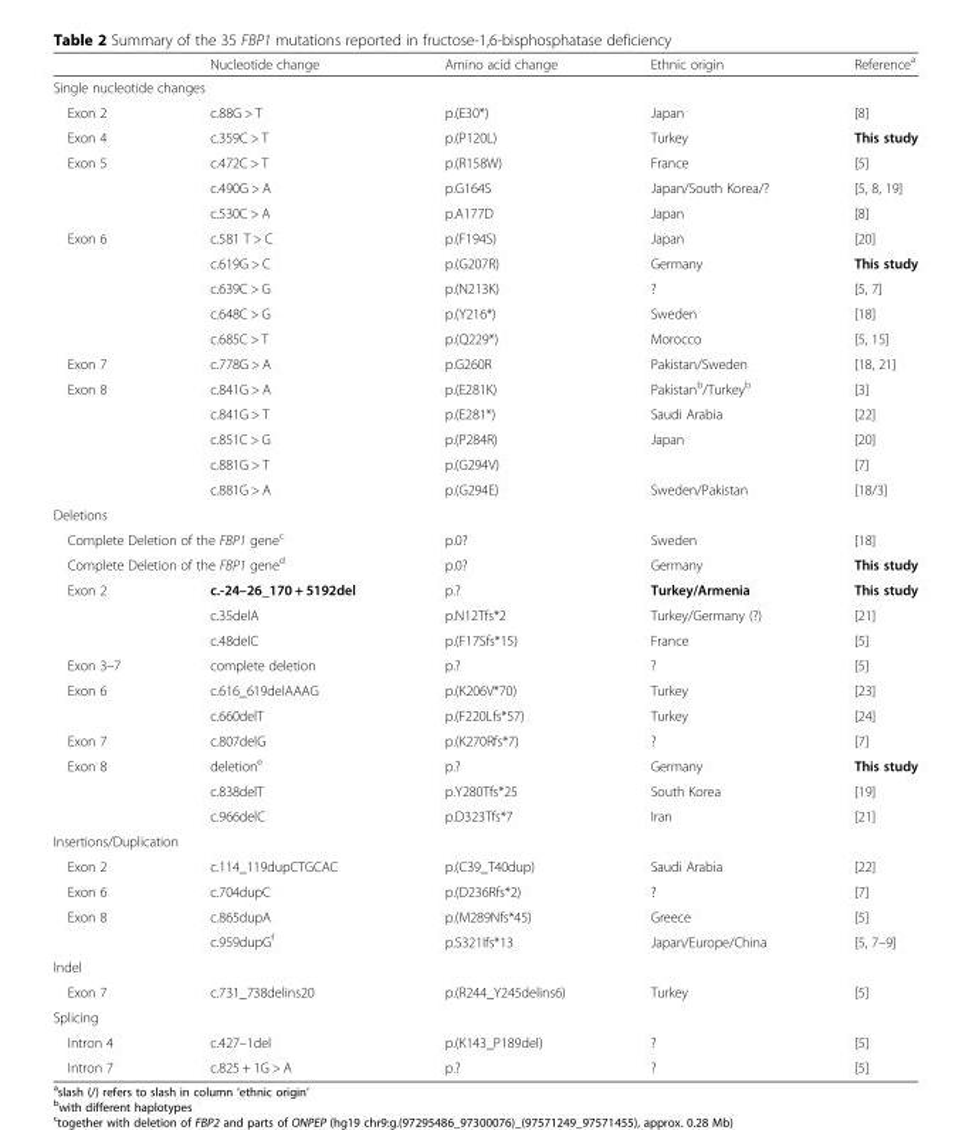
<table><thead><tr><td></td><td>Nucleotide change</td><td>Amino acid change</td><td>Ethnic origin</td><td>Reference<sup>a</sup></td></tr></thead><tbody><tr><td colspan="5">Single nucleotide changes</td></tr><tr><td>Exon 2</td><td>c.88G &gt; T</td><td>p.(E30*)</td><td>Japan</td><td>[8]</td></tr><tr><td>Exon 4</td><td>c.359C &gt; T</td><td>p.(P120L)</td><td>Turkey</td><td>This study</td></tr><tr><td rowspan="3">Exon 5</td><td>c.472C &gt; T</td><td>p.(R158W)</td><td>France</td><td>[5]</td></tr><tr><td>c.490G &gt; A</td><td>p.G164S</td><td>Japan/South Korea/?</td><td>[5, 8, 19]</td></tr><tr><td>c.530C &gt; A</td><td>p.A177D</td><td>Japan</td><td>[8]</td></tr><tr><td rowspan="5">Exon 6</td><td>c.581 T &gt; C</td><td>p.(F194S)</td><td>Japan</td><td>[20]</td></tr><tr><td>c.619G &gt; C</td><td>p.(G207R)</td><td>Germany</td><td>This study</td></tr><tr><td>c.639C &gt; G</td><td>p.(N213K)</td><td>?</td><td>[5, 7]</td></tr><tr><td>c.648C &gt; G</td><td>p.(Y216*)</td><td>Sweden</td><td>[18]</td></tr><tr><td>c.685C &gt; T</td><td>p.(Q229*)</td><td>Morocco</td><td>[5, 15]</td></tr><tr><td>Exon 7</td><td>c.778G &gt; A</td><td>p.G260R</td><td>Pakistan/Sweden</td><td>[18, 21]</td></tr><tr><td rowspan="5">Exon 8</td><td>c.841G &gt; A</td><td>p.(E281K)</td><td>Pakistan<sup>b</sup>/Turkey<sup>b</sup></td><td>[3]</td></tr><tr><td>c.841G &gt; T</td><td>p.(E281*)</td><td>Saudi Arabia</td><td>[22]</td></tr><tr><td>c.851C &gt; G</td><td>p.(P284R)</td><td>Japan</td><td>[20]</td></tr><tr><td>c.881G &gt; T</td><td>p.(G294V)</td><td></td><td>[7]</td></tr><tr><td>c.881G &gt; A</td><td>p.(G294E)</td><td>Sweden/Pakistan</td><td>[18/3]</td></tr><tr><td colspan="5">Deletions</td></tr><tr><td colspan="2">Complete Deletion of the FBP1 gene<sup>c</sup></td><td>p.0?</td><td>Sweden</td><td>[18]</td></tr><tr><td colspan="2">Complete Deletion of the FBP1 gene<sup>d</sup></td><td>p.0?</td><td>Germany</td><td>This study</td></tr><tr><td rowspan="3">Exon 2</td><td>c.-24–26_170 + 5192del</td><td>p.?</td><td>Turkey/Armenia</td><td>This study</td></tr><tr><td>c.35delA</td><td>p.N12Tfs*2</td><td>Turkey/Germany (?)</td><td>[21]</td></tr><tr><td>c.48delC</td><td>p.(F17Sfs*15)</td><td>France</td><td>[5]</td></tr><tr><td>Exon 3–7</td><td>complete deletion</td><td>p.?</td><td>?</td><td>[5]</td></tr><tr><td rowspan="2">Exon 6</td><td>c.616_619delAAAG</td><td>p.(K206V*70)</td><td>Turkey</td><td>[23]</td></tr><tr><td>c.660delT</td><td>p.(F220Lfs*57)</td><td>Turkey</td><td>[24]</td></tr><tr><td>Exon 7</td><td>c.807delG</td><td>p.(K270Rfs*7)</td><td>?</td><td>[7]</td></tr><tr><td rowspan="3">Exon 8</td><td>deletion<sup>e</sup></td><td>p.?</td><td>Germany</td><td>This study</td></tr><tr><td>c.838delT</td><td>p.Y280Tfs*25</td><td>South Korea</td><td>[19]</td></tr><tr><td>c.966delC</td><td>p.D323Tfs*7</td><td>Iran</td><td>[21]</td></tr><tr><td colspan="5">Insertions/Duplication</td></tr><tr><td>Exon 2</td><td>c.114_119dupCTGCAC</td><td>p.(C39_T40dup)</td><td>Saudi Arabia</td><td>[22]</td></tr><tr><td>Exon 6</td><td>c.704dupC</td><td>p.(D236Rfs*2)</td><td>?</td><td>[7]</td></tr><tr><td rowspan="2">Exon 8</td><td>c.865dupA</td><td>p.(M289Nfs*45)</td><td>Greece</td><td>[5]</td></tr><tr><td>c.959dupG<sup>f</sup></td><td>p.S321Ifs*13</td><td>Japan/Europe/China</td><td>[5, 7–9]</td></tr><tr><td colspan="5">Indel</td></tr><tr><td>Exon 7</td><td>c.731_738delins20</td><td>p.(R244_Y245delins6)</td><td>Turkey</td><td>[5]</td></tr><tr><td colspan="5">Splicing</td></tr><tr><td>Intron 4</td><td>c.427–1del</td><td>p.(K143_P189del)</td><td>?</td><td>[5]</td></tr><tr><td>Intron 7</td><td>c.825 + 1G &gt; A</td><td>p.?</td><td>?</td><td>[5]</td></tr></tbody></table>